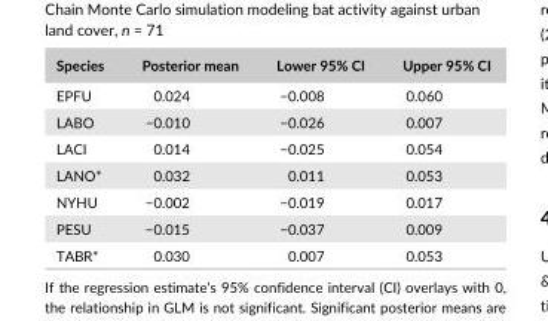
<table><thead><tr><td>Species</td><td>Posterior mean</td><td>Lower 95% CI</td><td>Upper 95% CI</td></tr></thead><tbody><tr><td>EPFU</td><td>0.024</td><td>−0.008</td><td>0.060</td></tr><tr><td>LABO</td><td>−0.010</td><td>−0.026</td><td>0.007</td></tr><tr><td>LACI</td><td>0.014</td><td>−0.025</td><td>0.054</td></tr><tr><td>LANO*</td><td>0.032</td><td>0.011</td><td>0.053</td></tr><tr><td>NYHU</td><td>−0.002</td><td>−0.019</td><td>0.017</td></tr><tr><td>PESU</td><td>−0.015</td><td>−0.037</td><td>0.009</td></tr><tr><td>TABR*</td><td>0.030</td><td>0.007</td><td>0.053</td></tr></tbody></table>